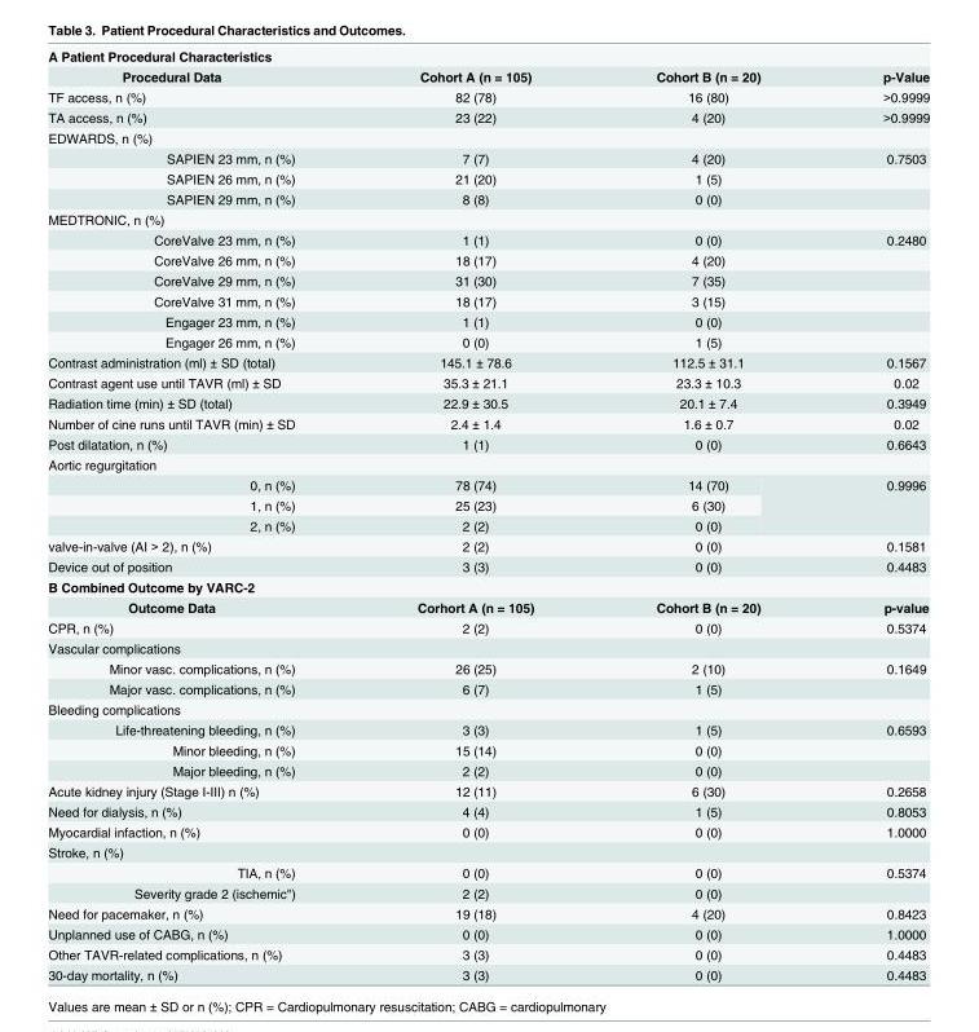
<table><tbody><tr><td colspan="4">A Patient Procedural Characteristics</td></tr><tr><td>Procedural Data</td><td>Cohort A (n = 105)</td><td>Cohort B (n = 20)</td><td>p-Value</td></tr><tr><td>TF access, n (%)</td><td>82 (78)</td><td>16 (80)</td><td>&gt;0.9999</td></tr><tr><td>TA access, n (%)</td><td>23 (22)</td><td>4 (20)</td><td>&gt;0.9999</td></tr><tr><td colspan="4">EDWARDS, n (%)</td></tr><tr><td>SAPIEN 23 mm, n (%)</td><td>7 (7)</td><td>4 (20)</td><td>0.7503</td></tr><tr><td>SAPIEN 26 mm, n (%)</td><td>21 (20)</td><td>1 (5)</td><td></td></tr><tr><td>SAPIEN 29 mm, n (%)</td><td>8 (8)</td><td>0 (0)</td><td></td></tr><tr><td colspan="4">MEDTRONIC, n (%)</td></tr><tr><td>CoreValve 23 mm, n (%)</td><td>1 (1)</td><td>0 (0)</td><td>0.2480</td></tr><tr><td>CoreValve 26 mm, n (%)</td><td>18 (17)</td><td>4 (20)</td><td></td></tr><tr><td>CoreValve 29 mm, n (%)</td><td>31 (30)</td><td>7 (35)</td><td></td></tr><tr><td>CoreValve 31 mm, n (%)</td><td>18 (17)</td><td>3 (15)</td><td></td></tr><tr><td>Engager 23 mm, n (%)</td><td>1 (1)</td><td>0 (0)</td><td></td></tr><tr><td>Engager 26 mm, n (%)</td><td>0 (0)</td><td>1 (5)</td><td></td></tr><tr><td>Contrast administration (ml) ± SD (total)</td><td>145.1 ± 78.6</td><td>112.5 ± 31.1</td><td>0.1567</td></tr><tr><td>Contrast agent use until TAVR (ml) ± SD</td><td>35.3 ± 21.1</td><td>23.3 ± 10.3</td><td>0.02</td></tr><tr><td>Radiation time (min) ± SD (total)</td><td>22.9 ± 30.5</td><td>20.1 ± 7.4</td><td>0.3949</td></tr><tr><td>Number of cine runs until TAVR (min) ± SD</td><td>2.4 ± 1.4</td><td>1.6 ± 0.7</td><td>0.02</td></tr><tr><td>Post dilatation, n (%)</td><td>1 (1)</td><td>0 (0)</td><td>0.6643</td></tr><tr><td colspan="4">Aortic regurgitation</td></tr><tr><td>0, n (%)</td><td>78 (74)</td><td>14 (70)</td><td rowspan="3">0.9996</td></tr><tr><td>1, n (%)</td><td>25 (23)</td><td>6 (30)</td></tr><tr><td>2, n (%)</td><td>2 (2)</td><td>0 (0)</td></tr><tr><td>valve-in-valve (AI &gt; 2), n (%)</td><td>2 (2)</td><td>0 (0)</td><td>0.1581</td></tr><tr><td>Device out of position</td><td>3 (3)</td><td>0 (0)</td><td>0.4483</td></tr><tr><td colspan="4">B Combined Outcome by VARC-2</td></tr><tr><td>Outcome Data</td><td>Corhort A (n = 105)</td><td>Cohort B (n = 20)</td><td>p-value</td></tr><tr><td>CPR, n (%)</td><td>2 (2)</td><td>0 (0)</td><td>0.5374</td></tr><tr><td colspan="4">Vascular complications</td></tr><tr><td>Minor vasc. complications, n (%)</td><td>26 (25)</td><td>2 (10)</td><td>0.1649</td></tr><tr><td>Major vasc. complications, n (%)</td><td>6 (7)</td><td>1 (5)</td><td></td></tr><tr><td colspan="4">Bleeding complications</td></tr><tr><td>Life-threatening bleeding, n (%)</td><td>3 (3)</td><td>1 (5)</td><td>0.6593</td></tr><tr><td>Minor bleeding, n (%)</td><td>15 (14)</td><td>0 (0)</td><td></td></tr><tr><td>Major bleeding, n (%)</td><td>2 (2)</td><td>0 (0)</td><td></td></tr><tr><td>Acute kidney injury (Stage I-III) n (%)</td><td>12 (11)</td><td>6 (30)</td><td>0.2658</td></tr><tr><td>Need for dialysis, n (%)</td><td>4 (4)</td><td>1 (5)</td><td>0.8053</td></tr><tr><td>Myocardial infaction, n (%)</td><td>0 (0)</td><td>0 (0)</td><td>1.0000</td></tr><tr><td colspan="4">Stroke, n (%)</td></tr><tr><td>TIA, n (%)</td><td>0 (0)</td><td>0 (0)</td><td>0.5374</td></tr><tr><td>Severity grade 2 (ischemic&quot;)</td><td>2 (2)</td><td>0 (0)</td><td></td></tr><tr><td>Need for pacemaker, n (%)</td><td>19 (18)</td><td>4 (20)</td><td>0.8423</td></tr><tr><td>Unplanned use of CABG, n (%)</td><td>0 (0)</td><td>0 (0)</td><td>1.0000</td></tr><tr><td>Other TAVR-related complications, n (%)</td><td>3 (3)</td><td>0 (0)</td><td>0.4483</td></tr><tr><td>30-day mortality, n (%)</td><td>3 (3)</td><td>0 (0)</td><td>0.4483</td></tr></tbody></table>